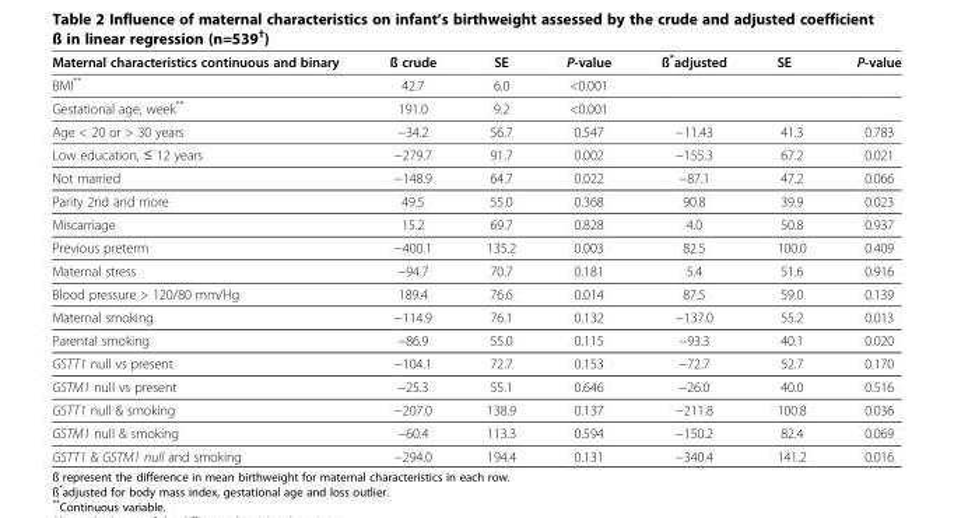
<table><thead><tr><td>Maternal characteristics continuous and binary</td><td>ß crude</td><td>SE</td><td>P-value</td><td>ß*adjusted</td><td>SE</td><td>P-value</td></tr></thead><tbody><tr><td>BMI**</td><td>42.7</td><td>6.0</td><td>&lt;0.001</td><td></td><td></td><td></td></tr><tr><td>Gestational age, week**</td><td>191.0</td><td>9.2</td><td>&lt;0.001</td><td></td><td></td><td></td></tr><tr><td>Age &lt; 20 or &gt; 30 years</td><td>−34.2</td><td>56.7</td><td>0.547</td><td>−11.43</td><td>41.3</td><td>0.783</td></tr><tr><td>Low education, ≤ 12 years</td><td>−279.7</td><td>91.7</td><td>0.002</td><td>−155.3</td><td>67.2</td><td>0.021</td></tr><tr><td>Not married</td><td>−148.9</td><td>64.7</td><td>0.022</td><td>−87.1</td><td>47.2</td><td>0.066</td></tr><tr><td>Parity 2nd and more</td><td>49.5</td><td>55.0</td><td>0.368</td><td>90.8</td><td>39.9</td><td>0.023</td></tr><tr><td>Miscarriage</td><td>15.2</td><td>69.7</td><td>0.828</td><td>4.0</td><td>50.8</td><td>0.937</td></tr><tr><td>Previous preterm</td><td>−400.1</td><td>135.2</td><td>0.003</td><td>82.5</td><td>100.0</td><td>0.409</td></tr><tr><td>Maternal stress</td><td>−94.7</td><td>70.7</td><td>0.181</td><td>5.4</td><td>51.6</td><td>0.916</td></tr><tr><td>Blood pressure &gt; 120/80 mm/Hg</td><td>189.4</td><td>76.6</td><td>0.014</td><td>87.5</td><td>59.0</td><td>0.139</td></tr><tr><td>Maternal smoking</td><td>−114.9</td><td>76.1</td><td>0.132</td><td>−137.0</td><td>55.2</td><td>0.013</td></tr><tr><td>Parental smoking</td><td>−86.9</td><td>55.0</td><td>0.115</td><td>−93.3</td><td>40.1</td><td>0.020</td></tr><tr><td>GSTT1 null vs present</td><td>−104.1</td><td>72.7</td><td>0.153</td><td>−72.7</td><td>52.7</td><td>0.170</td></tr><tr><td>GSTM1 null vs present</td><td>−25.3</td><td>55.1</td><td>0.646</td><td>−26.0</td><td>40.0</td><td>0.516</td></tr><tr><td>GSTT1 null &amp; smoking</td><td>−207.0</td><td>138.9</td><td>0.137</td><td>−211.8</td><td>100.8</td><td>0.036</td></tr><tr><td>GSTM1 null &amp; smoking</td><td>−60.4</td><td>113.3</td><td>0.594</td><td>−150.2</td><td>82.4</td><td>0.069</td></tr><tr><td>GSTT1 &amp; GSTM1 null and smoking</td><td>−294.0</td><td>194.4</td><td>0.131</td><td>−340.4</td><td>141.2</td><td>0.016</td></tr></tbody></table>